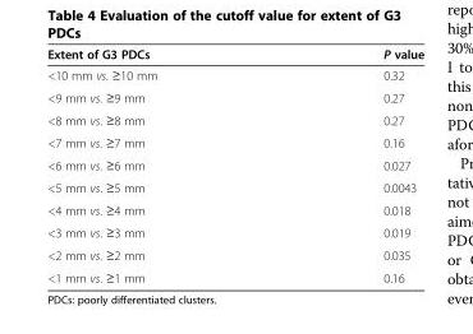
<table><thead><tr><td>Extent of G3 PDCs</td><td>P value</td></tr></thead><tbody><tr><td>&lt;10 mm vs. ≥10 mm</td><td>0.32</td></tr><tr><td>&lt;9 mm vs. ≥9 mm</td><td>0.27</td></tr><tr><td>&lt;8 mm vs. ≥8 mm</td><td>0.27</td></tr><tr><td>&lt;7 mm vs. ≥7 mm</td><td>0.16</td></tr><tr><td>&lt;6 mm vs. ≥6 mm</td><td>0.027</td></tr><tr><td>&lt;5 mm vs. ≥5 mm</td><td>0.0043</td></tr><tr><td>&lt;4 mm vs. ≥4 mm</td><td>0.018</td></tr><tr><td>&lt;3 mm vs. ≥3 mm</td><td>0.019</td></tr><tr><td>&lt;2 mm vs. ≥2 mm</td><td>0.035</td></tr><tr><td>&lt;1 mm vs. ≥1 mm</td><td>0.16</td></tr></tbody></table>